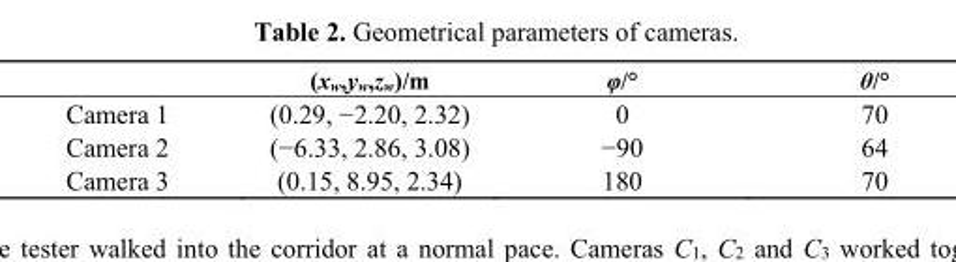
<table><thead><tr><td></td><td>(x<sub>w</sub>,y<sub>w</sub>,z<sub>w</sub>)/m</td><td>φ/°</td><td>θ/°</td></tr></thead><tbody><tr><td>Camera 1</td><td>(0.29, −2.20, 2.32)</td><td>0</td><td>70</td></tr><tr><td>Camera 2</td><td>(−6.33, 2.86, 3.08)</td><td>−90</td><td>64</td></tr><tr><td>Camera 3</td><td>(0.15, 8.95, 2.34)</td><td>180</td><td>70</td></tr></tbody></table>